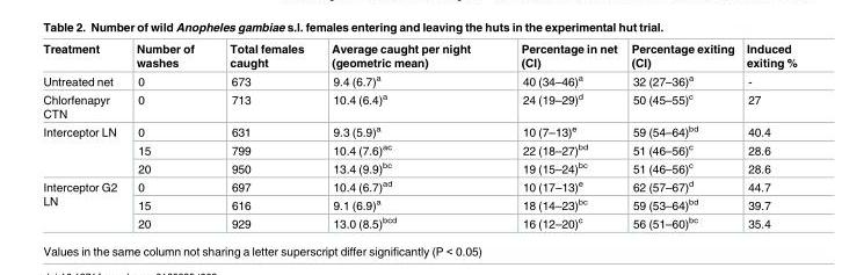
<table><thead><tr><td>Treatment</td><td>Number of washes</td><td>Total females caught</td><td>Average caught per night (geometric mean)</td><td>Percentage in net (CI)</td><td>Percentage exiting (CI)</td><td>Induced exiting %</td></tr></thead><tbody><tr><td>Untreated net</td><td>0</td><td>673</td><td>9.4 (6.7)<sup>a</sup></td><td>40 (34–46)<sup>a</sup></td><td>32 (27–36)<sup>a</sup></td><td>-</td></tr><tr><td>Chlorfenapyr CTN</td><td>0</td><td>713</td><td>10.4 (6.4)<sup>a</sup></td><td>24 (19–29)<sup>d</sup></td><td>50 (45–55)<sup>c</sup></td><td>27</td></tr><tr><td rowspan="3">Interceptor LN</td><td>0</td><td>631</td><td>9.3 (5.9)<sup>a</sup></td><td>10 (7–13)<sup>e</sup></td><td>59 (54–64)<sup>bd</sup></td><td>40.4</td></tr><tr><td>15</td><td>799</td><td>10.4 (7.6)<sup>ac</sup></td><td>22 (18–27)<sup>bd</sup></td><td>51 (46–56)<sup>c</sup></td><td>28.6</td></tr><tr><td>20</td><td>950</td><td>13.4 (9.9)<sup>bc</sup></td><td>19 (15–24)<sup>bc</sup></td><td>51 (46–56)<sup>c</sup></td><td>28.6</td></tr><tr><td rowspan="3">Interceptor G2 LN</td><td>0</td><td>697</td><td>10.4 (6.7)<sup>ad</sup></td><td>10 (17–13)<sup>e</sup></td><td>62 (57–67)<sup>d</sup></td><td>44.7</td></tr><tr><td>15</td><td>616</td><td>9.1 (6.9)<sup>a</sup></td><td>18 (14–23)<sup>bc</sup></td><td>59 (53–64)<sup>bd</sup></td><td>39.7</td></tr><tr><td>20</td><td>929</td><td>13.0 (8.5)<sup>bcd</sup></td><td>16 (12–20)<sup>c</sup></td><td>56 (51–60)<sup>bc</sup></td><td>35.4</td></tr></tbody></table>